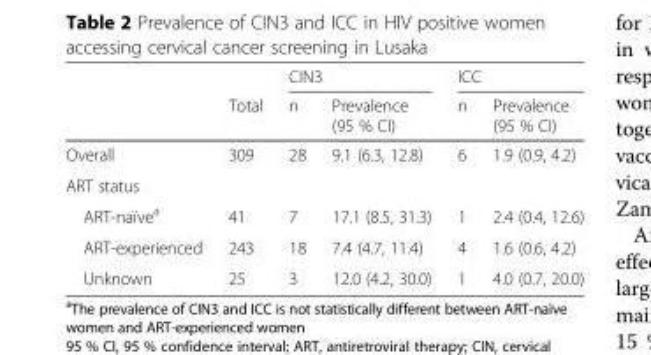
<table><thead><tr><td rowspan="2"></td><td rowspan="2">Total</td><td colspan="2">CIN3</td><td colspan="2">ICC</td></tr><tr><td>n</td><td>Prevalence (95 % CI)</td><td>n</td><td>Prevalence (95 % CI)</td></tr></thead><tbody><tr><td>Overall</td><td>309</td><td>28</td><td>9.1 (6.3, 12.8)</td><td>6</td><td>1.9 (0.9, 4.2)</td></tr><tr><td colspan="6">ART status</td></tr><tr><td>ART-naïve<sup>a</sup></td><td>41</td><td>7</td><td>17.1 (8.5, 31.3)</td><td>1</td><td>2.4 (0.4, 12.6)</td></tr><tr><td>ART-experienced</td><td>243</td><td>18</td><td>7.4 (4.7, 11.4)</td><td>4</td><td>1.6 (0.6, 4.2)</td></tr><tr><td>Unknown</td><td>25</td><td>3</td><td>12.0 (4.2, 30.0)</td><td>1</td><td>4.0 (0.7, 20.0)</td></tr></tbody></table>